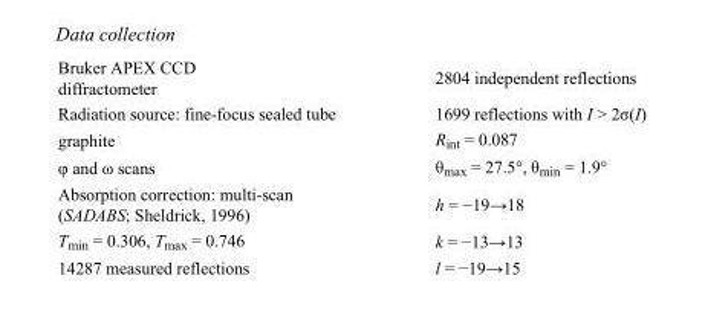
<table><tbody><tr><td>Bruker APEX CCD diffractometer</td><td>2804 independent reflections</td></tr><tr><td>Radiation source: fine-focus sealed tube</td><td>1699 reflections with I &gt; 2σ(I)</td></tr><tr><td>graphite</td><td>R<sub>int</sub> = 0.087</td></tr><tr><td>φ and ω scans</td><td>θ<sub>max</sub> = 27.5°, θ<sub>min</sub> = 1.9°</td></tr><tr><td>Absorption correction: multi-scan (SADABS; Sheldrick, 1996)</td><td>h = −19→18</td></tr><tr><td>T<sub>min</sub> = 0.306, T<sub>max</sub> = 0.746</td><td>k = −13→13</td></tr><tr><td>14287 measured reflections</td><td>l = −19→15</td></tr></tbody></table>